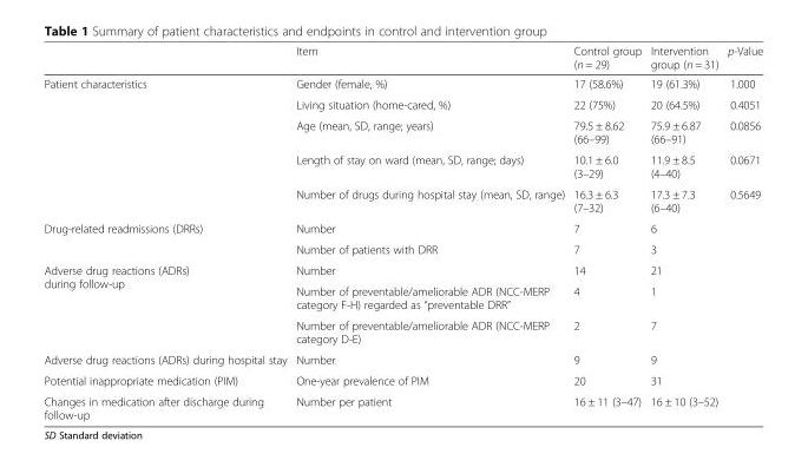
<table><thead><tr><td></td><td>Item</td><td>Control group (n = 29)</td><td>Intervention group (n = 31)</td><td>p-Value</td></tr></thead><tbody><tr><td rowspan="5">Patient characteristics</td><td>Gender (female, %)</td><td>17 (58.6%)</td><td>19 (61.3%)</td><td>1.000</td></tr><tr><td>Living situation (home-cared, %)</td><td>22 (75%)</td><td>20 (64.5%)</td><td>0.4051</td></tr><tr><td>Age (mean, SD, range; years)</td><td>79.5 ± 8.62 (66–99)</td><td>75.9 ± 6.87 (66–91)</td><td>0.0856</td></tr><tr><td>Length of stay on ward (mean, SD, range; days)</td><td>10.1 ± 6.0 (3–29)</td><td>11.9 ± 8.5 (4–40)</td><td>0.0671</td></tr><tr><td>Number of drugs during hospital stay (mean, SD, range)</td><td>16.3 ± 6.3 (7–32)</td><td>17.3 ± 7.3 (6–40)</td><td>0.5649</td></tr><tr><td rowspan="2">Drug-related readmissions (DRRs)</td><td>Number</td><td>7</td><td>6</td><td></td></tr><tr><td>Number of patients with DRR</td><td>7</td><td>3</td><td></td></tr><tr><td rowspan="3">Adverse drug reactions (ADRs) during follow-up</td><td>Number</td><td>14</td><td>21</td><td></td></tr><tr><td>Number of preventable/ameliorable ADR (NCC-MERP category F-H) regarded as “preventable DRR”</td><td>4</td><td>1</td><td></td></tr><tr><td>Number of preventable/ameliorable ADR (NCC-MERP category D-E)</td><td>2</td><td>7</td><td></td></tr><tr><td>Adverse drug reactions (ADRs) during hospital stay</td><td>Number</td><td>9</td><td>9</td><td></td></tr><tr><td>Potential inappropriate medication (PIM)</td><td>One-year prevalence of PIM</td><td>20</td><td>31</td><td></td></tr><tr><td>Changes in medication after discharge during follow-up</td><td>Number per patient</td><td>16 ± 11 (3–47)</td><td>16 ± 10 (3–52)</td><td></td></tr></tbody></table>